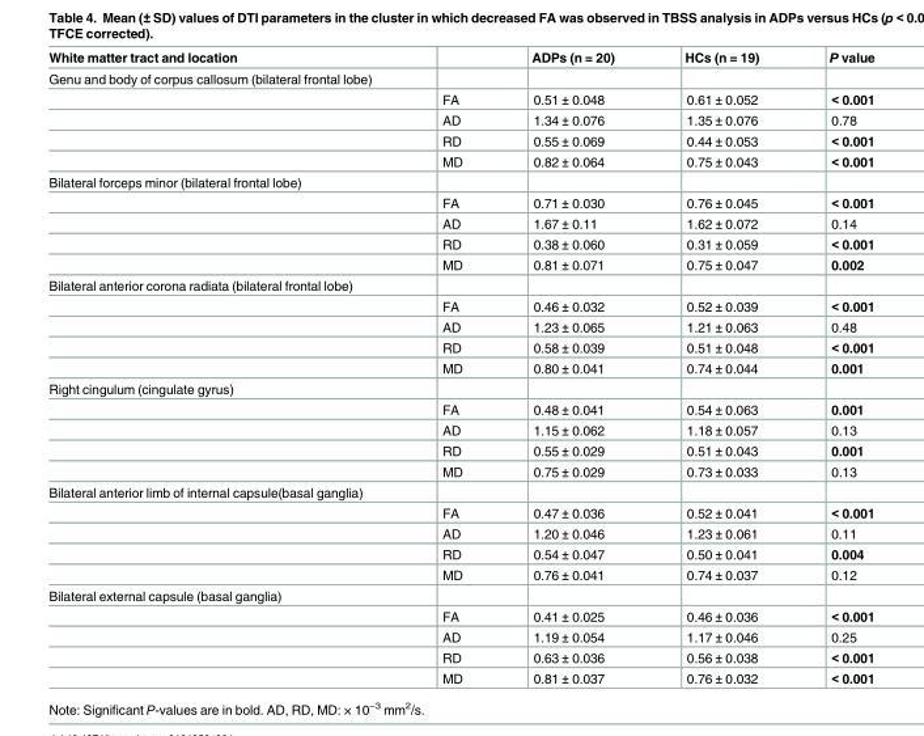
<table><thead><tr><td>White matter tract and location</td><td></td><td>ADPs (n = 20)</td><td>HCs (n = 19)</td><td>P value</td></tr></thead><tbody><tr><td colspan="5">Genu and body of corpus callosum (bilateral frontal lobe)</td></tr><tr><td></td><td>FA</td><td>0.51 ± 0.048</td><td>0.61 ± 0.052</td><td>&lt; 0.001</td></tr><tr><td></td><td>AD</td><td>1.34 ± 0.076</td><td>1.35 ± 0.076</td><td>0.78</td></tr><tr><td></td><td>RD</td><td>0.55 ± 0.069</td><td>0.44 ± 0.053</td><td>&lt; 0.001</td></tr><tr><td></td><td>MD</td><td>0.82 ± 0.064</td><td>0.75 ± 0.043</td><td>&lt; 0.001</td></tr><tr><td colspan="5">Bilateral forceps minor (bilateral frontal lobe)</td></tr><tr><td></td><td>FA</td><td>0.71 ± 0.030</td><td>0.76 ± 0.045</td><td>&lt; 0.001</td></tr><tr><td></td><td>AD</td><td>1.67 ± 0.11</td><td>1.62 ± 0.072</td><td>0.14</td></tr><tr><td></td><td>RD</td><td>0.38 ± 0.060</td><td>0.31 ± 0.059</td><td>&lt; 0.001</td></tr><tr><td></td><td>MD</td><td>0.81 ± 0.071</td><td>0.75 ± 0.047</td><td>0.002</td></tr><tr><td colspan="5">Bilateral anterior corona radiata (bilateral frontal lobe)</td></tr><tr><td></td><td>FA</td><td>0.46 ± 0.032</td><td>0.52 ± 0.039</td><td>&lt; 0.001</td></tr><tr><td></td><td>AD</td><td>1.23 ± 0.065</td><td>1.21 ± 0.063</td><td>0.48</td></tr><tr><td></td><td>RD</td><td>0.58 ± 0.039</td><td>0.51 ± 0.048</td><td>&lt; 0.001</td></tr><tr><td></td><td>MD</td><td>0.80 ± 0.041</td><td>0.74 ± 0.044</td><td>0.001</td></tr><tr><td colspan="5">Right cingulum (cingulate gyrus)</td></tr><tr><td></td><td>FA</td><td>0.48 ± 0.041</td><td>0.54 ± 0.063</td><td>0.001</td></tr><tr><td></td><td>AD</td><td>1.15 ± 0.062</td><td>1.18 ± 0.057</td><td>0.13</td></tr><tr><td></td><td>RD</td><td>0.55 ± 0.029</td><td>0.51 ± 0.043</td><td>0.001</td></tr><tr><td></td><td>MD</td><td>0.75 ± 0.029</td><td>0.73 ± 0.033</td><td>0.13</td></tr><tr><td colspan="5">Bilateral anterior limb of internal capsule(basal ganglia)</td></tr><tr><td></td><td>FA</td><td>0.47 ± 0.036</td><td>0.52 ± 0.041</td><td>&lt; 0.001</td></tr><tr><td></td><td>AD</td><td>1.20 ± 0.046</td><td>1.23 ± 0.061</td><td>0.11</td></tr><tr><td></td><td>RD</td><td>0.54 ± 0.047</td><td>0.50 ± 0.041</td><td>0.004</td></tr><tr><td></td><td>MD</td><td>0.76 ± 0.041</td><td>0.74 ± 0.037</td><td>0.12</td></tr><tr><td colspan="5">Bilateral external capsule (basal ganglia)</td></tr><tr><td></td><td>FA</td><td>0.41 ± 0.025</td><td>0.46 ± 0.036</td><td>&lt; 0.001</td></tr><tr><td></td><td>AD</td><td>1.19 ± 0.054</td><td>1.17 ± 0.046</td><td>0.25</td></tr><tr><td></td><td>RD</td><td>0.63 ± 0.036</td><td>0.56 ± 0.038</td><td>&lt; 0.001</td></tr><tr><td></td><td>MD</td><td>0.81 ± 0.037</td><td>0.76 ± 0.032</td><td>&lt; 0.001</td></tr></tbody></table>